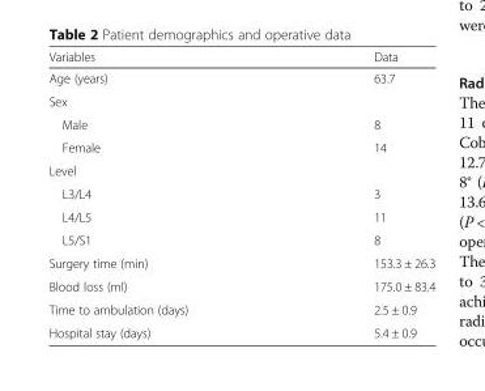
<table><thead><tr><td>Variables</td><td>Data</td></tr></thead><tbody><tr><td>Age (years)</td><td>63.7</td></tr><tr><td colspan="2">Sex</td></tr><tr><td>Male</td><td>8</td></tr><tr><td>Female</td><td>14</td></tr><tr><td colspan="2">Level</td></tr><tr><td>L3/L4</td><td>3</td></tr><tr><td>L4/L5</td><td>11</td></tr><tr><td>L5/S1</td><td>8</td></tr><tr><td>Surgery time (min)</td><td>153.3 ± 26.3</td></tr><tr><td>Blood loss (ml)</td><td>175.0 ± 83.4</td></tr><tr><td>Time to ambulation (days)</td><td>2.5 ± 0.9</td></tr><tr><td>Hospital stay (days)</td><td>5.4 ± 0.9</td></tr></tbody></table>